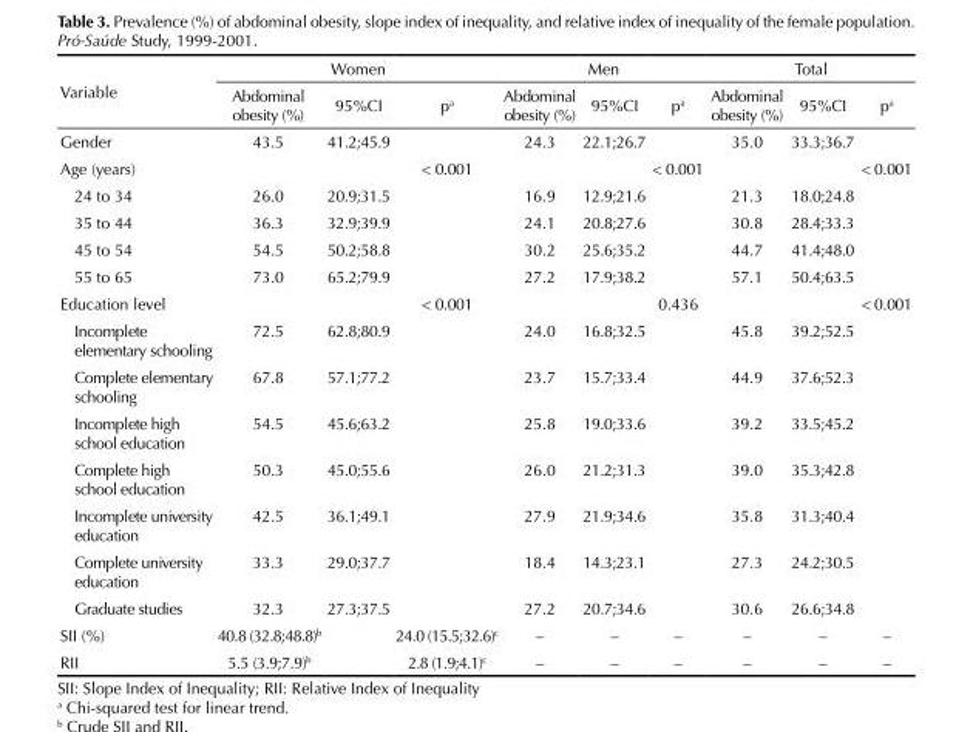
<table><thead><tr><td rowspan="2">Variable</td><td colspan="3">Women</td><td colspan="3">Men</td><td colspan="3">Total</td></tr><tr><td>Abdominal obesity (%)</td><td>95%CI</td><td>p<sup>a</sup></td><td>Abdominal obesity (%)</td><td>95%CI</td><td>p<sup>a</sup></td><td>Abdominal obesity (%)</td><td>95%CI</td><td>p<sup>a</sup></td></tr></thead><tbody><tr><td>Gender</td><td>43.5</td><td>41.2;45.9</td><td></td><td>24.3</td><td>22.1;26.7</td><td></td><td>35.0</td><td>33.3;36.7</td><td></td></tr><tr><td>Age (years)</td><td></td><td></td><td>&lt; 0.001</td><td></td><td></td><td>&lt; 0.001</td><td></td><td></td><td>&lt; 0.001</td></tr><tr><td>24 to 34</td><td>26.0</td><td>20.9;31.5</td><td></td><td>16.9</td><td>12.9;21.6</td><td></td><td>21.3</td><td>18.0;24.8</td><td></td></tr><tr><td>35 to 44</td><td>36.3</td><td>32.9;39.9</td><td></td><td>24.1</td><td>20.8;27.6</td><td></td><td>30.8</td><td>28.4;33.3</td><td></td></tr><tr><td>45 to 54</td><td>54.5</td><td>50.2;58.8</td><td></td><td>30.2</td><td>25.6;35.2</td><td></td><td>44.7</td><td>41.4;48.0</td><td></td></tr><tr><td>55 to 65</td><td>73.0</td><td>65.2;79.9</td><td></td><td>27.2</td><td>17.9;38.2</td><td></td><td>57.1</td><td>50.4;63.5</td><td></td></tr><tr><td>Education level</td><td></td><td></td><td>&lt; 0.001</td><td></td><td></td><td>0.436</td><td></td><td></td><td>&lt; 0.001</td></tr><tr><td>Incomplete elementary schooling</td><td>72.5</td><td>62.8;80.9</td><td></td><td>24.0</td><td>16.8;32.5</td><td></td><td>45.8</td><td>39.2;52.5</td><td></td></tr><tr><td>Complete elementary schooling</td><td>67.8</td><td>57.1;77.2</td><td></td><td>23.7</td><td>15.7;33.4</td><td></td><td>44.9</td><td>37.6;52.3</td><td></td></tr><tr><td>Incomplete high school education</td><td>54.5</td><td>45.6;63.2</td><td></td><td>25.8</td><td>19.0;33.6</td><td></td><td>39.2</td><td>33.5;45.2</td><td></td></tr><tr><td>Complete high school education</td><td>50.3</td><td>45.0;55.6</td><td></td><td>26.0</td><td>21.2;31.3</td><td></td><td>39.0</td><td>35.3;42.8</td><td></td></tr><tr><td>Incomplete university education</td><td>42.5</td><td>36.1;49.1</td><td></td><td>27.9</td><td>21.9;34.6</td><td></td><td>35.8</td><td>31.3;40.4</td><td></td></tr><tr><td>Complete university education</td><td>33.3</td><td>29.0;37.7</td><td></td><td>18.4</td><td>14.3;23.1</td><td></td><td>27.3</td><td>24.2;30.5</td><td></td></tr><tr><td>Graduate studies</td><td>32.3</td><td>27.3;37.5</td><td></td><td>27.2</td><td>20.7;34.6</td><td></td><td>30.6</td><td>26.6;34.8</td><td></td></tr><tr><td>SII (%)</td><td>40.8 (32.8;48.8)<sup>b</sup></td><td></td><td>24.0 (15.5;32.6)<sup>c</sup></td><td>–</td><td>–</td><td>–</td><td>–</td><td>–</td><td>–</td></tr><tr><td>RII</td><td>5.5 (3.9;7.9)<sup>b</sup></td><td></td><td>2.8 (1.9;4.1)<sup>c</sup></td><td>–</td><td>–</td><td>–</td><td>–</td><td>–</td><td>–</td></tr></tbody></table>